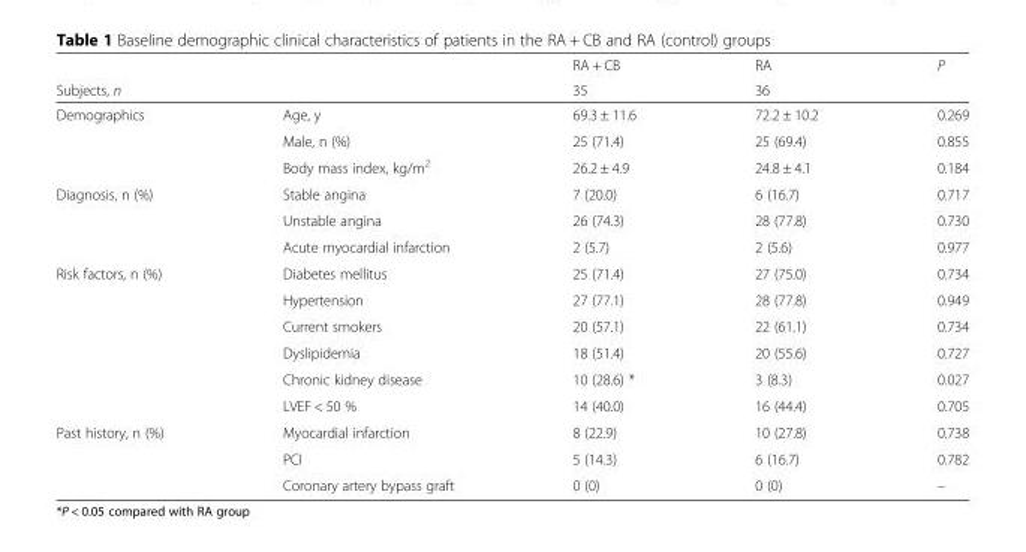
<table><thead><tr><td rowspan="2">Subjects, n</td><td rowspan="2"></td><td rowspan="2">RA + CB 35</td><td rowspan="2">RA 36</td><td rowspan="2">P</td></tr><tr></tr></thead><tbody><tr><td rowspan="3">Demographics</td><td>Age, y</td><td>69.3 ± 11.6</td><td>72.2 ± 10.2</td><td>0.269</td></tr><tr><td>Male, n (%)</td><td>25 (71.4)</td><td>25 (69.4)</td><td>0.855</td></tr><tr><td>Body mass index, kg/m<sup>2</sup></td><td>26.2 ± 4.9</td><td>24.8 ± 4.1</td><td>0.184</td></tr><tr><td rowspan="3">Diagnosis, n (%)</td><td>Stable angina</td><td>7 (20.0)</td><td>6 (16.7)</td><td>0.717</td></tr><tr><td>Unstable angina</td><td>26 (74.3)</td><td>28 (77.8)</td><td>0.730</td></tr><tr><td>Acute myocardial infarction</td><td>2 (5.7)</td><td>2 (5.6)</td><td>0.977</td></tr><tr><td rowspan="6">Risk factors, n (%)</td><td>Diabetes mellitus</td><td>25 (71.4)</td><td>27 (75.0)</td><td>0.734</td></tr><tr><td>Hypertension</td><td>27 (77.1)</td><td>28 (77.8)</td><td>0.949</td></tr><tr><td>Current smokers</td><td>20 (57.1)</td><td>22 (61.1)</td><td>0.734</td></tr><tr><td>Dyslipidemia</td><td>18 (51.4)</td><td>20 (55.6)</td><td>0.727</td></tr><tr><td>Chronic kidney disease</td><td>10 (28.6) *</td><td>3 (8.3)</td><td>0.027</td></tr><tr><td>LVEF &lt; 50 %</td><td>14 (40.0)</td><td>16 (44.4)</td><td>0.705</td></tr><tr><td rowspan="3">Past history, n (%)</td><td>Myocardial infarction</td><td>8 (22.9)</td><td>10 (27.8)</td><td>0.738</td></tr><tr><td>PCI</td><td>5 (14.3)</td><td>6 (16.7)</td><td>0.782</td></tr><tr><td>Coronary artery bypass graft</td><td>0 (0)</td><td>0 (0)</td><td>–</td></tr></tbody></table>